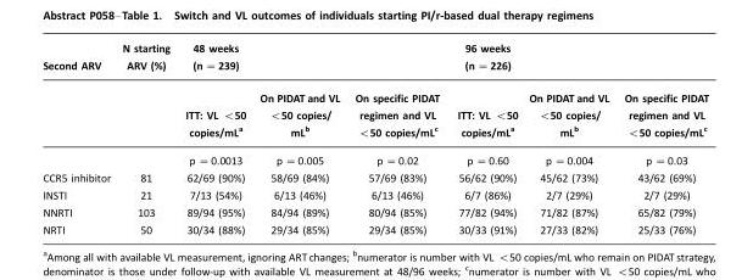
<table><thead><tr><td rowspan="2">Second ARV</td><td rowspan="2">N starting ARV (%)</td><td rowspan="2">48 weeks (n =239) ITT: VL &lt;50 copies/mLa</td><td rowspan="2">On PIDAT and VL &lt;50 copies/ mLb</td><td rowspan="2">On specific PIDAT regimen and VL &lt;50 copies/mLc</td><td rowspan="2">96 weeks (n =226) ITT: VL &lt;50 copies/mLa</td><td rowspan="2">On PIDAT and VL &lt;50 copies/ mLb</td><td rowspan="2">On specific PIDAT regimen and VL &lt;50 copies/mLc</td></tr><tr></tr></thead><tbody><tr><td></td><td></td><td>p =0.0013</td><td>p =0.005</td><td>p =0.02</td><td>p =0.60</td><td>p =0.004</td><td>p =0.03</td></tr><tr><td>CCR5 inhibitor</td><td>81</td><td>62/69 (90%)</td><td>58/69 (84%)</td><td>57/69 (83%)</td><td>56/62 (90%)</td><td>45/62 (73%)</td><td>43/62 (69%)</td></tr><tr><td>INSTI</td><td>21</td><td>7/13 (54%)</td><td>6/13 (46%)</td><td>6/13 (46%)</td><td>6/7 (86%)</td><td>2/7 (29%)</td><td>2/7 (29%)</td></tr><tr><td>NNRTI</td><td>103</td><td>89/94 (95%)</td><td>84/94 (89%)</td><td>80/94 (85%)</td><td>77/82 (94%)</td><td>71/82 (87%)</td><td>65/82 (79%)</td></tr><tr><td>NRTI</td><td>50</td><td>30/34 (88%)</td><td>29/34 (85%)</td><td>29/34 (85%)</td><td>30/33 (91%)</td><td>27/33 (82%)</td><td>25/33 (76%)</td></tr></tbody></table>